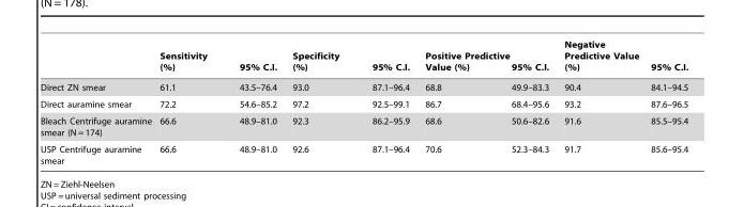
<table><thead><tr><td></td><td>Sensitivity (%)</td><td>95% C.I.</td><td>Specificity (%)</td><td>95% C.I.</td><td>Positive Predictive Value (%)</td><td>95% C.I.</td><td>Negative Predictive Value (%)</td><td>95% C.I.</td></tr></thead><tbody><tr><td>Direct ZN smear</td><td>61.1</td><td>43.5–76.4</td><td>93.0</td><td>87.1–96.4</td><td>68.8</td><td>49.9–83.3</td><td>90.4</td><td>84.1–94.5</td></tr><tr><td>Direct auramine smear</td><td>72.2</td><td>54.6–85.2</td><td>97.2</td><td>92.5–99.1</td><td>86.7</td><td>68.4–95.6</td><td>93.2</td><td>87.6–96.5</td></tr><tr><td>Bleach Centrifuge auramine smear (N = 174)</td><td>66.6</td><td>48.9–81.0</td><td>92.3</td><td>86.2–95.9</td><td>68.6</td><td>50.6–82.6</td><td>91.6</td><td>85.5–95.4</td></tr><tr><td>USP Centrifuge auramine smear</td><td>66.6</td><td>48.9–81.0</td><td>92.6</td><td>87.1–96.4</td><td>70.6</td><td>52.3–84.3</td><td>91.7</td><td>85.6–95.4</td></tr></tbody></table>